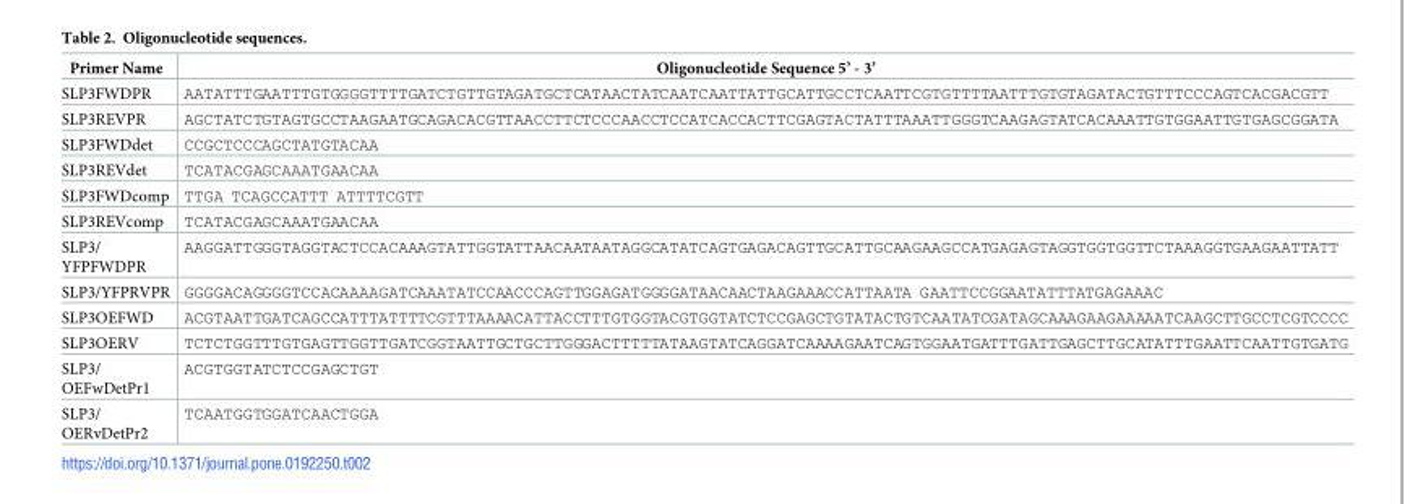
<table><thead><tr><td>Primer Name</td><td>Oligonucleotide Sequence 5’ - 3’</td></tr></thead><tbody><tr><td>SLP3FWDPR</td><td>AATATTTGAATTTGTGGGGTTTTGATCTGTTGTAGATGCTCATAACTATCAATCAATTATTGCATTGCCTCAATTCGTGTTTTAATTTGTGTAGATACTGTTTCCCAGTCACGACGTT</td></tr><tr><td>SLP3REVPR</td><td>AGCTATCTGTAGTGCCTAAGAATGCAGACACGTTAACCTTCTCCCAACCTCCATCACCACTTCGAGTACTATTTAAATTGGGTCAAGAGTATCACAAATTGTGGAATTGTGAGCGGATA</td></tr><tr><td>SLP3FWDdet</td><td>CCGCTCCCAGCTATGTACAA</td></tr><tr><td>SLP3REVdet</td><td>TCATACGAGCAAATGAACAA</td></tr><tr><td>SLP3FWDcomp</td><td>TTGA TCAGCCATTT ATTTTCGTT</td></tr><tr><td>SLP3REVcomp</td><td>TCATACGAGCAAATGAACAA</td></tr><tr><td>SLP3/ YFPFWDPR</td><td>AAGGATTGGGTAGGTACTCCACAAAGTATTGGTATTAACAATAATAGGCATATCAGTGAGACAGTTGCATTGCAAGAAGCCATGAGAGTAGGTGGTGGTTCTAAAGGTGAAGAATTATT</td></tr><tr><td>SLP3/YFPRVPR</td><td>GGGGACAGGGGTCCACAAAAGATCAAATATCCAACCCAGTTGGAGATGGGGATAACAACTAAGAAACCATTAATA GAATTCCGGAATATTTATGAGAAAC</td></tr><tr><td>SLP3OEFWD</td><td>ACGTAATTGATCAGCCATTTATTTTCGTTTAAAACATTACCTTTGTGGTACGTGGTATCTCCGAGCTGTATACTGTCAATATCGATAGCAAAGAAGAAAAATCAAGCTTGCCTCGTCCCC</td></tr><tr><td>SLP3OERV</td><td>TCTCTGGTTTGTGAGTTGGTTGATCGGTAATTGCTGCTTGGGACTTTTTATAAGTATCAGGATCAAAAGAATCAGTGGAATGATTTGATTGAGCTTGCATATTTGAATTCAATTGTGATG</td></tr><tr><td>SLP3/ OEFwDetPr1</td><td>ACGTGGTATCTCCGAGCTGT</td></tr><tr><td>SLP3/ OERvDetPr2</td><td>TCAATGGTGGATCAACTGGA</td></tr></tbody></table>